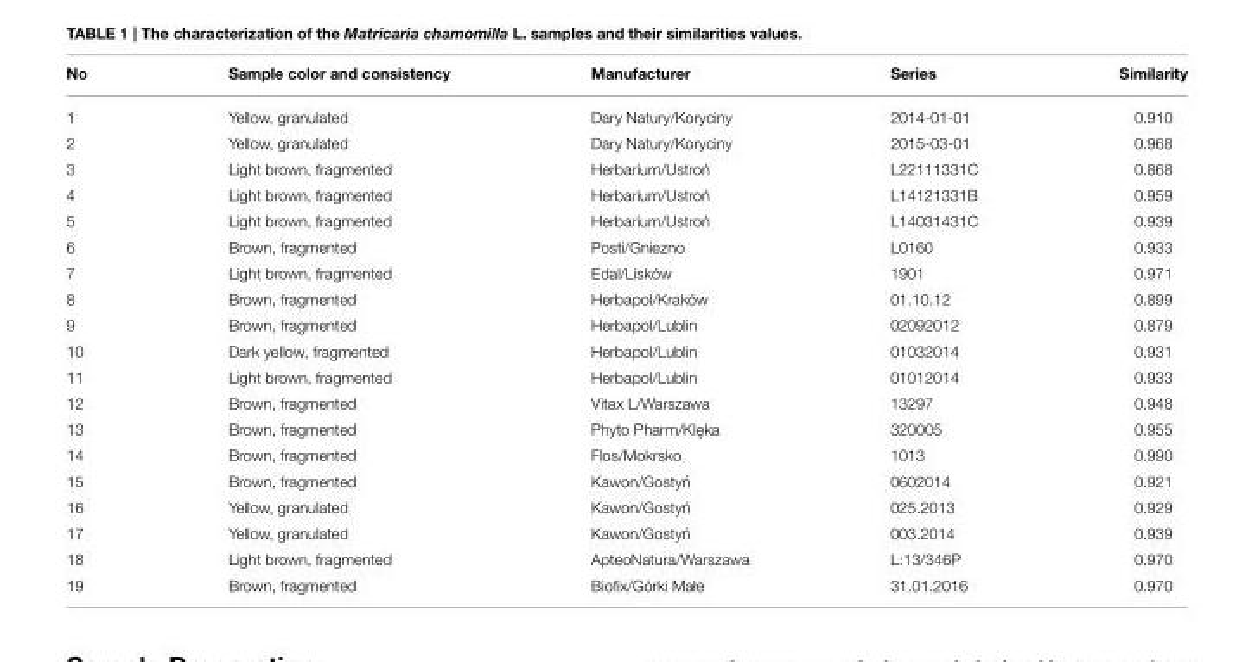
<table><thead><tr><td>No</td><td>Sample color and consistency</td><td>Manufacturer</td><td>Series</td><td>Similarity</td></tr></thead><tbody><tr><td>1</td><td>Yellow, granulated</td><td>Dary Natury/Koryciny</td><td>2014-01-01</td><td>0.910</td></tr><tr><td>2</td><td>Yellow, granulated</td><td>Dary Natury/Koryciny</td><td>2015-03-01</td><td>0.968</td></tr><tr><td>3</td><td>Light brown, fragmented</td><td>Herbarium/Ustro ´n</td><td>L22111331C</td><td>0.868</td></tr><tr><td>4</td><td>Light brown, fragmented</td><td>Herbarium/Ustro ´n</td><td>L14121331B</td><td>0.959</td></tr><tr><td>5</td><td>Light brown, fragmented</td><td>Herbarium/Ustro ´n</td><td>L14031431C</td><td>0.939</td></tr><tr><td>6</td><td>Brown, fragmented</td><td>Posti/Gniezno</td><td>L0160</td><td>0.933</td></tr><tr><td>7</td><td>Light brown, fragmented</td><td>Edal/Lisków</td><td>1901</td><td>0.971</td></tr><tr><td>8</td><td>Brown, fragmented</td><td>Herbapol/Kraków</td><td>01.10.12</td><td>0.899</td></tr><tr><td>9</td><td>Brown, fragmented</td><td>Herbapol/Lublin</td><td>02092012</td><td>0.879</td></tr><tr><td>10</td><td>Dark yellow, fragmented</td><td>Herbapol/Lublin</td><td>01032014</td><td>0.931</td></tr><tr><td>11</td><td>Light brown, fragmented</td><td>Herbapol/Lublin</td><td>01012014</td><td>0.933</td></tr><tr><td>12</td><td>Brown, fragmented</td><td>Vitax L/Warszawa</td><td>13297</td><td>0.948</td></tr><tr><td>13</td><td>Brown, fragmented</td><td>Phyto Pharm/Kl ˛eka</td><td>320005</td><td>0.955</td></tr><tr><td>14</td><td>Brown, fragmented</td><td>Flos/Mokrsko</td><td>1013</td><td>0.990</td></tr><tr><td>15</td><td>Brown, fragmented</td><td>Kawon/Gosty ´n</td><td>0602014</td><td>0.921</td></tr><tr><td>16</td><td>Yellow, granulated</td><td>Kawon/Gosty ´n</td><td>025.2013</td><td>0.929</td></tr><tr><td>17</td><td>Yellow, granulated</td><td>Kawon/Gosty ´n</td><td>003.2014</td><td>0.939</td></tr><tr><td>18</td><td>Light brown, fragmented</td><td>ApteoNatura/Warszawa</td><td>L:13/346P</td><td>0.970</td></tr><tr><td>19</td><td>Brown, fragmented</td><td>Biofix/Górki Małe</td><td>31.01.2016</td><td>0.970</td></tr></tbody></table>